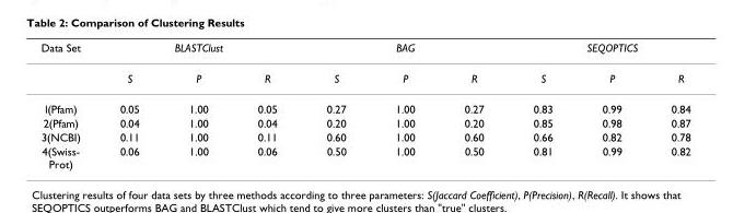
<table><thead><tr><td rowspan="2">Data Set</td><td colspan="3">BLASTClust</td><td colspan="3">BAG</td><td colspan="3">SEQOPTICS</td></tr><tr><td>S</td><td>P</td><td>R</td><td>S</td><td>P</td><td>R</td><td>S</td><td>P</td><td>R</td></tr></thead><tbody><tr><td>l(Pfam)</td><td>0.05</td><td>1.00</td><td>0.05</td><td>0.27</td><td>1.00</td><td>0.27</td><td>0.83</td><td>0.99</td><td>0.84</td></tr><tr><td>2(Pfam)</td><td>0.04</td><td>1.00</td><td>0.04</td><td>0.20</td><td>1.00</td><td>0.20</td><td>0.85</td><td>0.98</td><td>0.87</td></tr><tr><td>3(NCBI)</td><td>0.11</td><td>1.00</td><td>0.11</td><td>0.60</td><td>1.00</td><td>0.60</td><td>0.66</td><td>0.82</td><td>0.78</td></tr><tr><td>4(Swiss- Prot)</td><td>0.06</td><td>1.00</td><td>0.06</td><td>0.50</td><td>1.00</td><td>0.50</td><td>0.81</td><td>0.99</td><td>0.82</td></tr></tbody></table>